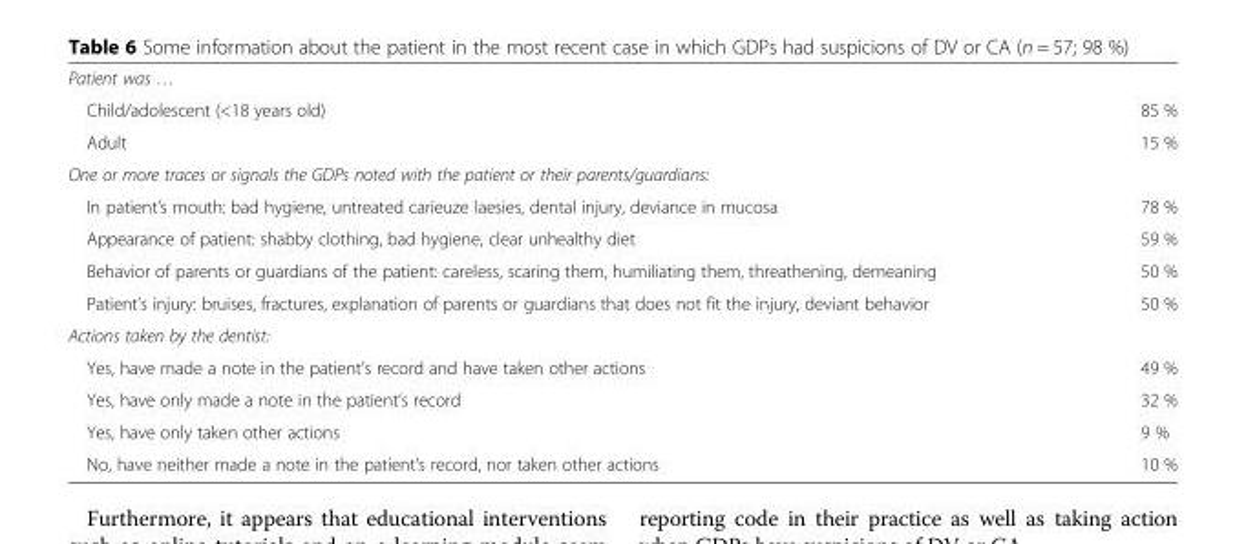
<table><tbody><tr><td colspan="2">Patient was …</td></tr><tr><td>Child/adolescent (&lt;18 years old)</td><td>85 %</td></tr><tr><td>Adult</td><td>15 %</td></tr><tr><td colspan="2">One or more traces or signals the GDPs noted with the patient or their parents/guardians:</td></tr><tr><td>In patient’s mouth: bad hygiene, untreated carieuze laesies, dental injury, deviance in mucosa</td><td>78 %</td></tr><tr><td>Appearance of patient: shabby clothing, bad hygiene, clear unhealthy diet</td><td>59 %</td></tr><tr><td>Behavior of parents or guardians of the patient: careless, scaring them, humiliating them, threathening, demeaning</td><td>50 %</td></tr><tr><td>Patient’s injury: bruises, fractures, explanation of parents or guardians that does not fit the injury, deviant behavior</td><td>50 %</td></tr><tr><td colspan="2">Actions taken by the dentist:</td></tr><tr><td>Yes, have made a note in the patient’s record and have taken other actions</td><td>49 %</td></tr><tr><td>Yes, have only made a note in the patient’s record</td><td>32 %</td></tr><tr><td>Yes, have only taken other actions</td><td>9 %</td></tr><tr><td>No, have neither made a note in the patient’s record, nor taken other actions</td><td>10 %</td></tr></tbody></table>